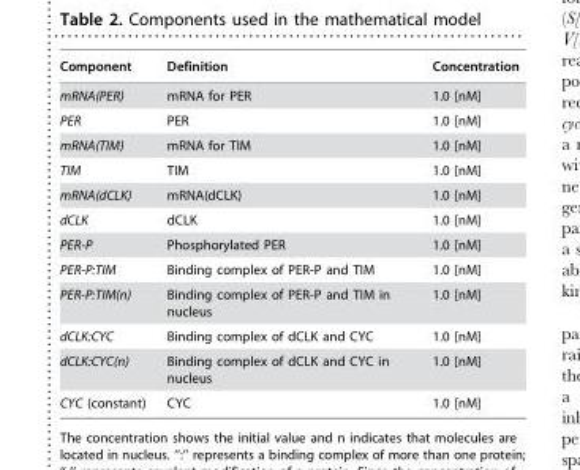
<table><thead><tr><td>Component</td><td>Definition</td><td>Concentration</td></tr></thead><tbody><tr><td>mRNA(PER)</td><td>mRNA for PER</td><td>1.0 [nM]</td></tr><tr><td>PER</td><td>PER</td><td>1.0 [nM]</td></tr><tr><td>mRNA(TIM)</td><td>mRNA for TIM</td><td>1.0 [nM]</td></tr><tr><td>TIM</td><td>TIM</td><td>1.0 [nM]</td></tr><tr><td>mRNA(dCLK)</td><td>mRNA(dCLK)</td><td>1.0 [nM]</td></tr><tr><td>dCLK</td><td>dCLK</td><td>1.0 [nM]</td></tr><tr><td>PER-P</td><td>Phosphorylated PER</td><td>1.0 [nM]</td></tr><tr><td>PER-P:TIM</td><td>Binding complex of PER-P and TIM</td><td>1.0 [nM]</td></tr><tr><td>PER-P:TIM(n)</td><td>Binding complex of PER-P and TIM in nucleus</td><td>1.0 [nM]</td></tr><tr><td>dCLK:CYC</td><td>Binding complex of dCLK and CYC</td><td>1.0 [nM]</td></tr><tr><td>dCLK:CYC(n)</td><td>Binding complex of dCLK and CYC in nucleus</td><td>1.0 [nM]</td></tr><tr><td>CYC (constant)</td><td>CYC</td><td>1.0 [nM]</td></tr></tbody></table>